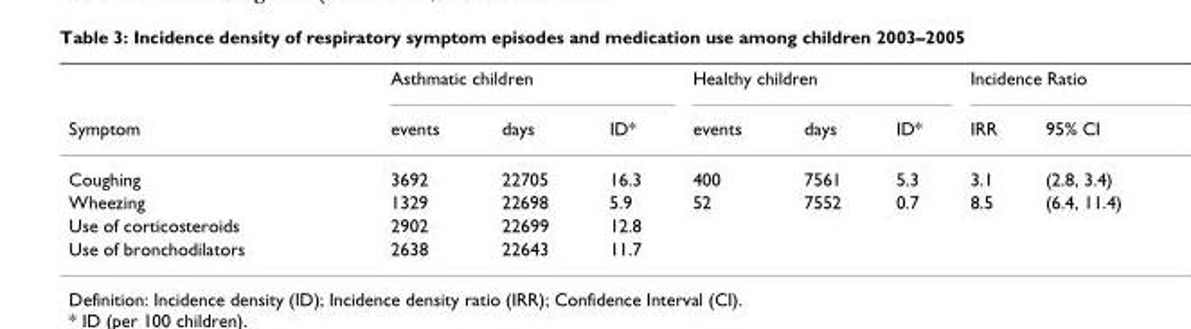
<table><thead><tr><td rowspan="2">Symptom</td><td colspan="3">Asthmatic children</td><td colspan="3">Healthy children</td><td colspan="2">Incidence Ratio</td></tr><tr><td>events</td><td>days</td><td>ID*</td><td>events</td><td>days</td><td>ID*</td><td>IRR</td><td>95% CI</td></tr></thead><tbody><tr><td>Coughing</td><td>3692</td><td>22705</td><td>16.3</td><td>400</td><td>7561</td><td>5.3</td><td>3.1</td><td>(2.8, 3.4)</td></tr><tr><td>Wheezing</td><td>1329</td><td>22698</td><td>5.9</td><td>52</td><td>7552</td><td>0.7</td><td>8.5</td><td>(6.4, 11.4)</td></tr><tr><td>Use of corticosteroids</td><td>2902</td><td>22699</td><td>12.8</td><td></td><td></td><td></td><td></td><td></td></tr><tr><td>Use of bronchodilators</td><td>2638</td><td>22643</td><td>11.7</td><td></td><td></td><td></td><td></td><td></td></tr></tbody></table>